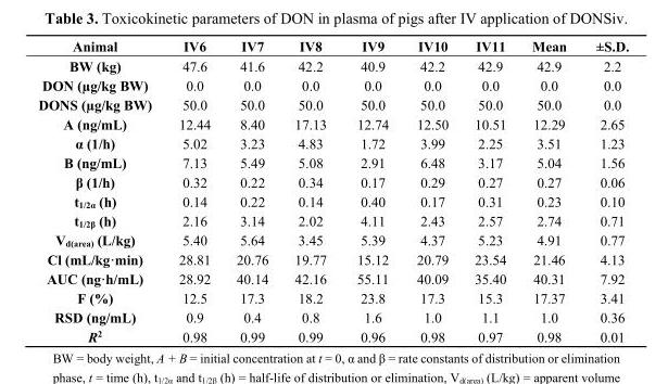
<table><thead><tr><td>Animal</td><td>IV6</td><td>IV7</td><td>IV8</td><td>IV9</td><td>IV10</td><td>IV11</td><td>Mean</td><td>±S.D.</td></tr></thead><tbody><tr><td>BW (kg)</td><td>47.6</td><td>41.6</td><td>42.2</td><td>40.9</td><td>42.2</td><td>42.9</td><td>42.9</td><td>2.2</td></tr><tr><td>DON (µg/kg BW)</td><td>0.0</td><td>0.0</td><td>0.0</td><td>0.0</td><td>0.0</td><td>0.0</td><td>0.0</td><td>0.0</td></tr><tr><td>DONS (µg/kg BW)</td><td>50.0</td><td>50.0</td><td>50.0</td><td>50.0</td><td>50.0</td><td>50.0</td><td>50.0</td><td>0.0</td></tr><tr><td>A (ng/mL)</td><td>12.44</td><td>8.40</td><td>17.13</td><td>12.74</td><td>12.50</td><td>10.51</td><td>12.29</td><td>2.65</td></tr><tr><td>α (1/h)</td><td>5.02</td><td>3.23</td><td>4.83</td><td>1.72</td><td>3.99</td><td>2.25</td><td>3.51</td><td>1.23</td></tr><tr><td>B (ng/mL)</td><td>7.13</td><td>5.49</td><td>5.08</td><td>2.91</td><td>6.48</td><td>3.17</td><td>5.04</td><td>1.56</td></tr><tr><td>β (1/h)</td><td>0.32</td><td>0.22</td><td>0.34</td><td>0.17</td><td>0.29</td><td>0.27</td><td>0.27</td><td>0.06</td></tr><tr><td>t<sub>1/2α</sub> (h)</td><td>0.14</td><td>0.22</td><td>0.14</td><td>0.40</td><td>0.17</td><td>0.31</td><td>0.23</td><td>0.10</td></tr><tr><td>t<sub>1/2β</sub> (h)</td><td>2.16</td><td>3.14</td><td>2.02</td><td>4.11</td><td>2.43</td><td>2.57</td><td>2.74</td><td>0.71</td></tr><tr><td>V<sub>d(area)</sub> (L/kg)</td><td>5.40</td><td>5.64</td><td>3.45</td><td>5.39</td><td>4.37</td><td>5.23</td><td>4.91</td><td>0.77</td></tr><tr><td>Cl (mL/kg·min)</td><td>28.81</td><td>20.76</td><td>19.77</td><td>15.12</td><td>20.79</td><td>23.54</td><td>21.46</td><td>4.13</td></tr><tr><td>AUC (ng·h/mL)</td><td>28.92</td><td>40.14</td><td>42.16</td><td>55.11</td><td>40.09</td><td>35.40</td><td>40.31</td><td>7.92</td></tr><tr><td>F (%)</td><td>12.5</td><td>17.3</td><td>18.2</td><td>23.8</td><td>17.3</td><td>15.3</td><td>17.37</td><td>3.41</td></tr><tr><td>RSD (ng/mL)</td><td>0.9</td><td>0.4</td><td>0.8</td><td>1.6</td><td>1.0</td><td>1.1</td><td>1.0</td><td>0.36</td></tr><tr><td>R<sup>2</sup></td><td>0.98</td><td>0.99</td><td>0.99</td><td>0.96</td><td>0.98</td><td>0.97</td><td>0.98</td><td>0.01</td></tr></tbody></table>